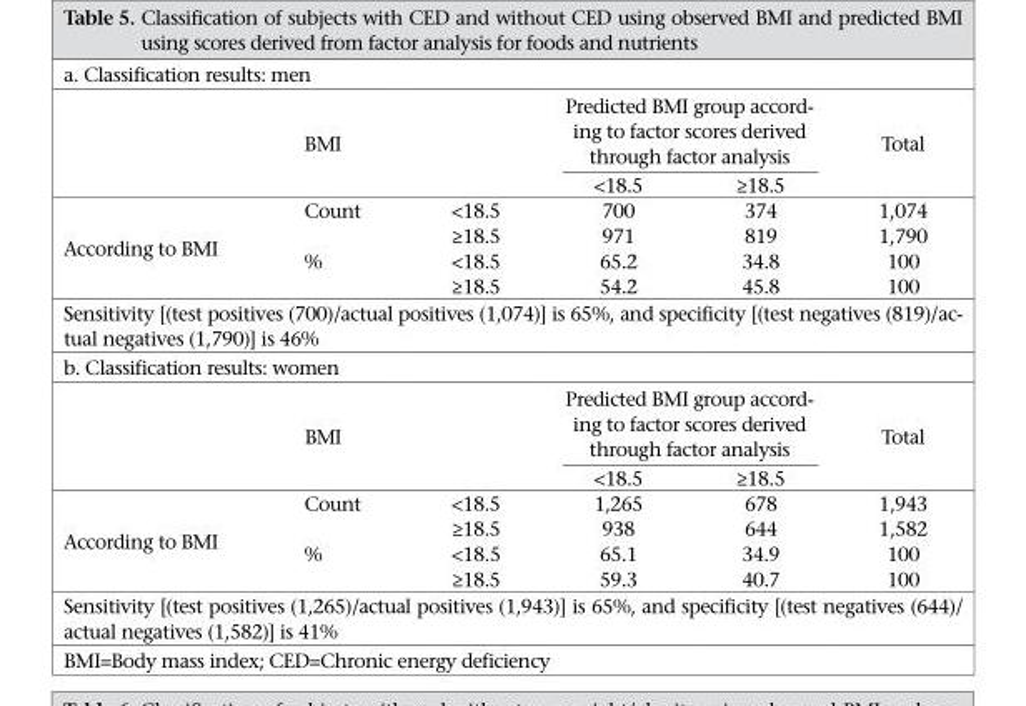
<table><tbody><tr><td colspan="6">a. Classification results: men</td></tr><tr><td rowspan="2"></td><td rowspan="2">BMI</td><td rowspan="2"></td><td colspan="2">Predicted BMI group accord- ing to factor scores derived through factor analysis</td><td rowspan="2">Total</td></tr><tr><td>&lt;18.5</td><td>≥18.5</td></tr><tr><td rowspan="4">According to BMI</td><td>Count</td><td>&lt;18.5</td><td>700</td><td>374</td><td>1,074</td></tr><tr><td></td><td>≥18.5</td><td>971</td><td>819</td><td>1,790</td></tr><tr><td>%</td><td>&lt;18.5</td><td>65.2</td><td>34.8</td><td>100</td></tr><tr><td></td><td>≥18.5</td><td>54.2</td><td>45.8</td><td>100</td></tr><tr><td colspan="6">Sensitivity [(test positives (700)/actual positives (1,074)] is 65%, and specificity [(test negatives (819)/ac- tual negatives (1,790)] is 46%</td></tr><tr><td colspan="6">b. Classification results: women</td></tr><tr><td rowspan="2"></td><td rowspan="2">BMI</td><td rowspan="2"></td><td colspan="2">Predicted BMI group accord- ing to factor scores derived through factor analysis</td><td rowspan="2">Total</td></tr><tr><td>&lt;18.5</td><td>≥18.5</td></tr><tr><td rowspan="4">According to BMI</td><td>Count</td><td>&lt;18.5</td><td>1,265</td><td>678</td><td>1,943</td></tr><tr><td></td><td>≥18.5</td><td>938</td><td>644</td><td>1,582</td></tr><tr><td>%</td><td>&lt;18.5</td><td>65.1</td><td>34.9</td><td>100</td></tr><tr><td></td><td>≥18.5</td><td>59.3</td><td>40.7</td><td>100</td></tr><tr><td colspan="6">Sensitivity [(test positives (1,265)/actual positives (1,943)] is 65%, and specificity [(test negatives (644)/ actual negatives (1,582)] is 41%</td></tr></tbody></table>